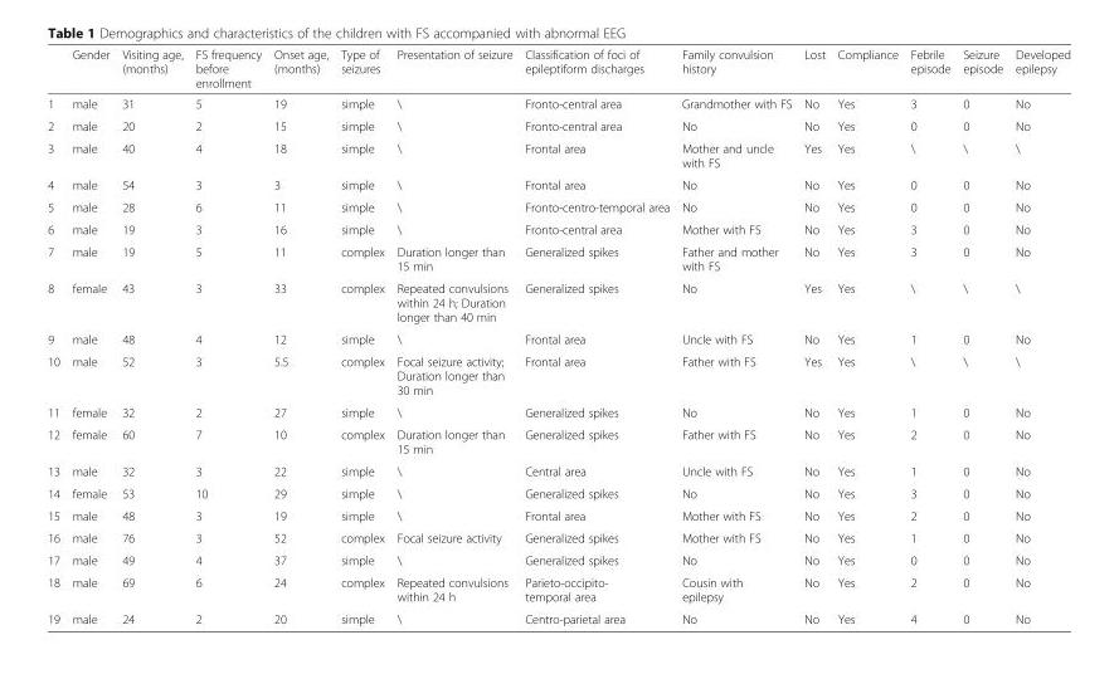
<table><thead><tr><td></td><td>Gender</td><td>Visiting age, (months)</td><td>FS frequency before enrollment</td><td>Onset age, (months)</td><td>Type of seizures</td><td>Presentation of seizure</td><td>Classification of foci of epileptiform discharges</td><td>Family convulsion history</td><td>Lost</td><td>Compliance</td><td>Febrile episode</td><td>Seizure episode</td><td>Developed epilepsy</td></tr></thead><tbody><tr><td>1</td><td>male</td><td>31</td><td>5</td><td>19</td><td>simple</td><td>\</td><td>Fronto-central area</td><td>Grandmother with FS</td><td>No</td><td>Yes</td><td>3</td><td>0</td><td>No</td></tr><tr><td>2</td><td>male</td><td>20</td><td>2</td><td>15</td><td>simple</td><td>\</td><td>Fronto-central area</td><td>No</td><td>No</td><td>Yes</td><td>0</td><td>0</td><td>No</td></tr><tr><td>3</td><td>male</td><td>40</td><td>4</td><td>18</td><td>simple</td><td>\</td><td>Frontal area</td><td>Mother and uncle with FS</td><td>Yes</td><td>Yes</td><td>\</td><td>\</td><td>\</td></tr><tr><td>4</td><td>male</td><td>54</td><td>3</td><td>3</td><td>simple</td><td>\</td><td>Frontal area</td><td>No</td><td>No</td><td>Yes</td><td>0</td><td>0</td><td>No</td></tr><tr><td>5</td><td>male</td><td>28</td><td>6</td><td>11</td><td>simple</td><td>\</td><td>Fronto-centro-temporal area</td><td>No</td><td>No</td><td>Yes</td><td>0</td><td>0</td><td>No</td></tr><tr><td>6</td><td>male</td><td>19</td><td>3</td><td>16</td><td>simple</td><td>\</td><td>Fronto-central area</td><td>Mother with FS</td><td>No</td><td>Yes</td><td>3</td><td>0</td><td>No</td></tr><tr><td>7</td><td>male</td><td>19</td><td>5</td><td>11</td><td>complex</td><td>Duration longer than 15 min</td><td>Generalized spikes</td><td>Father and mother with FS</td><td>No</td><td>Yes</td><td>3</td><td>0</td><td>No</td></tr><tr><td>8</td><td>female</td><td>43</td><td>3</td><td>33</td><td>complex</td><td>Repeated convulsions within 24 h; Duration longer than 40 min</td><td>Generalized spikes</td><td>No</td><td>Yes</td><td>Yes</td><td>\</td><td>\</td><td>\</td></tr><tr><td>9</td><td>male</td><td>48</td><td>4</td><td>12</td><td>simple</td><td>\</td><td>Frontal area</td><td>Uncle with FS</td><td>No</td><td>Yes</td><td>1</td><td>0</td><td>No</td></tr><tr><td>10</td><td>male</td><td>52</td><td>3</td><td>5.5</td><td>complex</td><td>Focal seizure activity; Duration longer than 30 min</td><td>Frontal area</td><td>Father with FS</td><td>Yes</td><td>Yes</td><td>\</td><td>\</td><td>\</td></tr><tr><td>11</td><td>female</td><td>32</td><td>2</td><td>27</td><td>simple</td><td>\</td><td>Generalized spikes</td><td>No</td><td>No</td><td>Yes</td><td>1</td><td>0</td><td>No</td></tr><tr><td>12</td><td>female</td><td>60</td><td>7</td><td>10</td><td>complex</td><td>Duration longer than 15 min</td><td>Generalized spikes</td><td>Father with FS</td><td>No</td><td>Yes</td><td>2</td><td>0</td><td>No</td></tr><tr><td>13</td><td>male</td><td>32</td><td>3</td><td>22</td><td>simple</td><td>\</td><td>Central area</td><td>Uncle with FS</td><td>No</td><td>Yes</td><td>1</td><td>0</td><td>No</td></tr><tr><td>14</td><td>female</td><td>53</td><td>10</td><td>29</td><td>simple</td><td>\</td><td>Generalized spikes</td><td>No</td><td>No</td><td>Yes</td><td>3</td><td>0</td><td>No</td></tr><tr><td>15</td><td>male</td><td>48</td><td>3</td><td>19</td><td>simple</td><td>\</td><td>Frontal area</td><td>Mother with FS</td><td>No</td><td>Yes</td><td>2</td><td>0</td><td>No</td></tr><tr><td>16</td><td>male</td><td>76</td><td>3</td><td>52</td><td>complex</td><td>Focal seizure activity</td><td>Generalized spikes</td><td>Mother with FS</td><td>No</td><td>Yes</td><td>1</td><td>0</td><td>No</td></tr><tr><td>17</td><td>male</td><td>49</td><td>4</td><td>37</td><td>simple</td><td>\</td><td>Generalized spikes</td><td>No</td><td>No</td><td>Yes</td><td>0</td><td>0</td><td>No</td></tr><tr><td>18</td><td>male</td><td>69</td><td>6</td><td>24</td><td>complex</td><td>Repeated convulsions within 24 h</td><td>Parieto-occipito- temporal area</td><td>Cousin with epilepsy</td><td>No</td><td>Yes</td><td>2</td><td>0</td><td>No</td></tr><tr><td>19</td><td>male</td><td>24</td><td>2</td><td>20</td><td>simple</td><td>\</td><td>Centro-parietal area</td><td>No</td><td>No</td><td>Yes</td><td>4</td><td>0</td><td>No</td></tr></tbody></table>